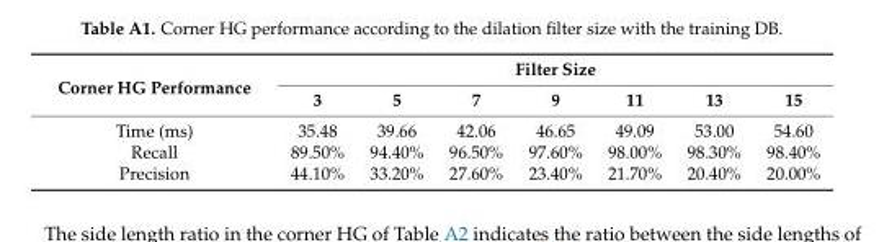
<table><thead><tr><td rowspan="2">Corner HG Performance</td><td colspan="7">Filter Size</td></tr><tr><td>3</td><td>5</td><td>7</td><td>9</td><td>11</td><td>13</td><td>15</td></tr></thead><tbody><tr><td>Time (ms)</td><td>35.48</td><td>39.66</td><td>42.06</td><td>46.65</td><td>49.09</td><td>53.00</td><td>54.60</td></tr><tr><td>Recall</td><td>89.50%</td><td>94.40%</td><td>96.50%</td><td>97.60%</td><td>98.00%</td><td>98.30%</td><td>98.40%</td></tr><tr><td>Precision</td><td>44.10%</td><td>33.20%</td><td>27.60%</td><td>23.40%</td><td>21.70%</td><td>20.40%</td><td>20.00%</td></tr></tbody></table>